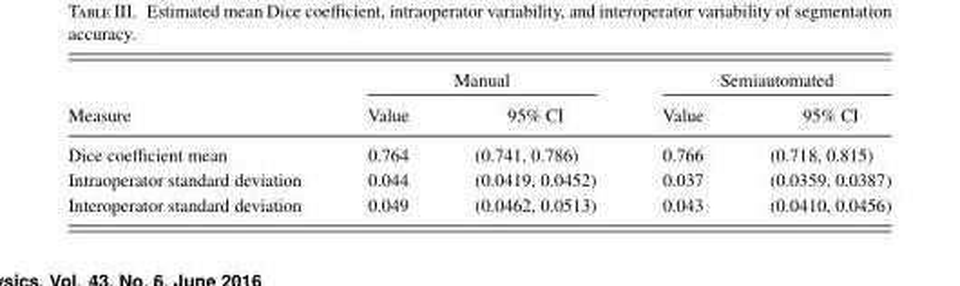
<table><thead><tr><td rowspan="2">Measure</td><td colspan="2">Manual</td><td colspan="2">Semiautomated</td></tr><tr><td>Value</td><td>95% CI</td><td>Value</td><td>95% CI</td></tr></thead><tbody><tr><td>Dice coefficient mean</td><td>0.764</td><td>(0.741, 0.786)</td><td>0.766</td><td>(0.718, 0.815)</td></tr><tr><td>Intraoperator standard deviation</td><td>0.044</td><td>(0.0419, 0.0452)</td><td>0.037</td><td>(0.0359, 0.0387)</td></tr><tr><td>Interoperator standard deviation</td><td>0.049</td><td>(0.0462, 0.0513)</td><td>0.043</td><td>(0.0410, 0.0456)</td></tr></tbody></table>